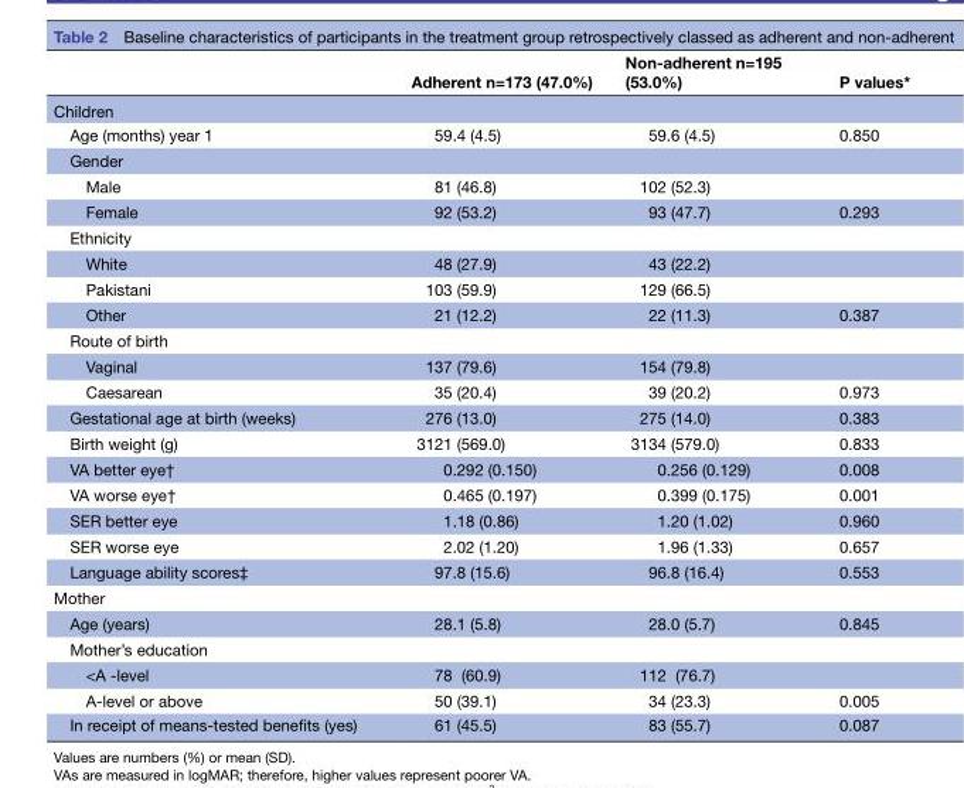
<table><thead><tr><td></td><td>Adherent n=173 (47.0%)</td><td>Non-adherent n=195 (53.0%)</td><td>P values*</td></tr></thead><tbody><tr><td colspan="4">Children</td></tr><tr><td>Age (months) year 1</td><td>59.4 (4.5)</td><td>59.6 (4.5)</td><td>0.850</td></tr><tr><td colspan="4">Gender</td></tr><tr><td>Male</td><td>81 (46.8)</td><td>102 (52.3)</td><td></td></tr><tr><td>Female</td><td>92 (53.2)</td><td>93 (47.7)</td><td>0.293</td></tr><tr><td colspan="4">Ethnicity</td></tr><tr><td>White</td><td>48 (27.9)</td><td>43 (22.2)</td><td></td></tr><tr><td>Pakistani</td><td>103 (59.9)</td><td>129 (66.5)</td><td></td></tr><tr><td>Other</td><td>21 (12.2)</td><td>22 (11.3)</td><td>0.387</td></tr><tr><td colspan="4">Route of birth</td></tr><tr><td>Vaginal</td><td>137 (79.6)</td><td>154 (79.8)</td><td></td></tr><tr><td>Caesarean</td><td>35 (20.4)</td><td>39 (20.2)</td><td>0.973</td></tr><tr><td>Gestational age at birth (weeks)</td><td>276 (13.0)</td><td>275 (14.0)</td><td>0.383</td></tr><tr><td>Birth weight (g)</td><td>3121 (569.0)</td><td>3134 (579.0)</td><td>0.833</td></tr><tr><td>VA better eye†</td><td>0.292 (0.150)</td><td>0.256 (0.129)</td><td>0.008</td></tr><tr><td>VA worse eye†</td><td>0.465 (0.197)</td><td>0.399 (0.175)</td><td>0.001</td></tr><tr><td>SER better eye</td><td>1.18 (0.86)</td><td>1.20 (1.02)</td><td>0.960</td></tr><tr><td>SER worse eye</td><td>2.02 (1.20)</td><td>1.96 (1.33)</td><td>0.657</td></tr><tr><td>Language ability scores‡</td><td>97.8 (15.6)</td><td>96.8 (16.4)</td><td>0.553</td></tr><tr><td colspan="4">Mother</td></tr><tr><td>Age (years)</td><td>28.1 (5.8)</td><td>28.0 (5.7)</td><td>0.845</td></tr><tr><td colspan="4">Mother’s education</td></tr><tr><td>&lt;A -level</td><td>78 (60.9)</td><td>112 (76.7)</td><td></td></tr><tr><td>A-level or above</td><td>50 (39.1)</td><td>34 (23.3)</td><td>0.005</td></tr><tr><td>In receipt of means-tested benefits (yes)</td><td>61 (45.5)</td><td>83 (55.7)</td><td>0.087</td></tr></tbody></table>